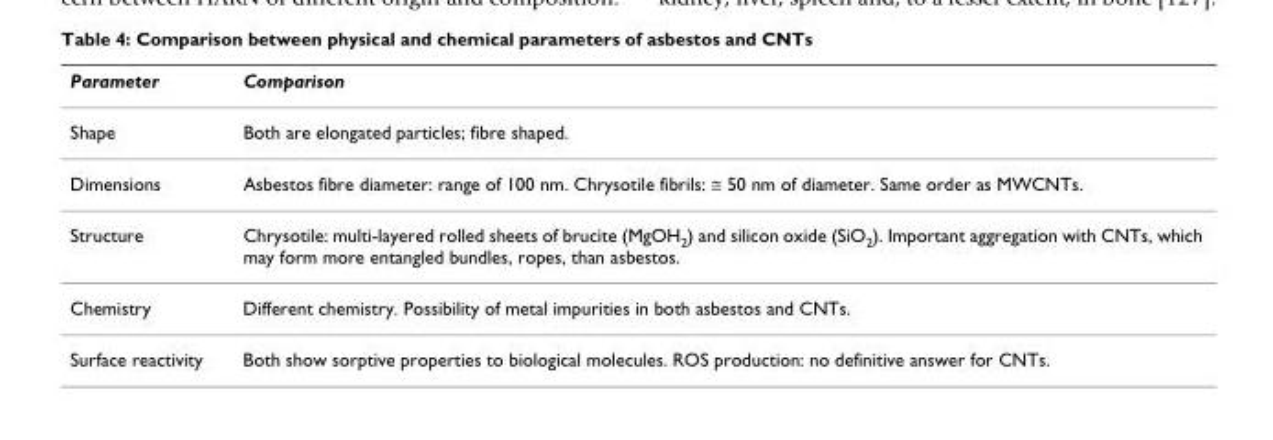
<table><thead><tr><td>Parameter</td><td>Comparison</td></tr></thead><tbody><tr><td>Shape</td><td>Both are elongated particles; fibre shaped.</td></tr><tr><td>Dimensions</td><td>Asbestos fibre diameter: range of 100 nm. Chrysotile fibrils: ≅ 50 nm of diameter. Same order as MWCNTs.</td></tr><tr><td>Structure</td><td>Chrysotile: multi-layered rolled sheets of brucite (MgOH<sub>2</sub>) and silicon oxide (SiO<sub>2</sub>). Important aggregation with CNTs, which may form more entangled bundles, ropes, than asbestos.</td></tr><tr><td>Chemistry</td><td>Different chemistry. Possibility of metal impurities in both asbestos and CNTs.</td></tr><tr><td>Surface reactivity</td><td>Both show sorptive properties to biological molecules. ROS production: no definitive answer for CNTs.</td></tr></tbody></table>